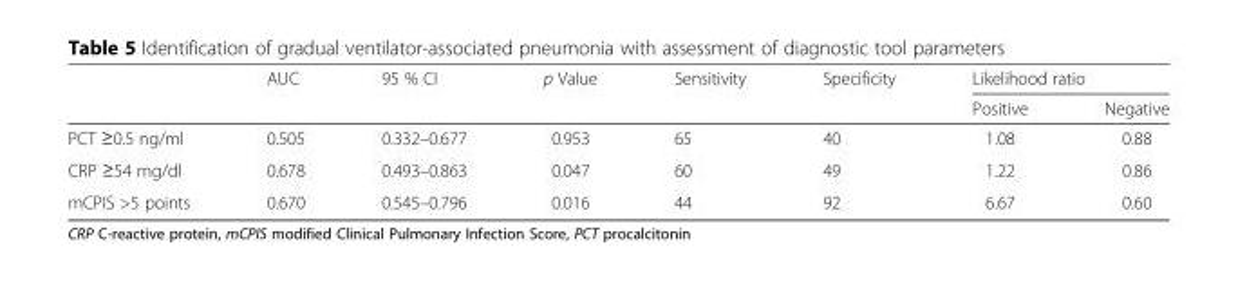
<table><thead><tr><td rowspan="2"></td><td rowspan="2">AUC</td><td rowspan="2">95 % CI</td><td rowspan="2">p Value</td><td rowspan="2">Sensitivity</td><td rowspan="2">Specificity</td><td colspan="2">Likelihood ratio</td></tr><tr><td>Positive</td><td>Negative</td></tr></thead><tbody><tr><td>PCT ≥0.5 ng/ml</td><td>0.505</td><td>0.332–0.677</td><td>0.953</td><td>65</td><td>40</td><td>1.08</td><td>0.88</td></tr><tr><td>CRP ≥54 mg/dl</td><td>0.678</td><td>0.493–0.863</td><td>0.047</td><td>60</td><td>49</td><td>1.22</td><td>0.86</td></tr><tr><td>mCPIS &gt;5 points</td><td>0.670</td><td>0.545–0.796</td><td>0.016</td><td>44</td><td>92</td><td>6.67</td><td>0.60</td></tr></tbody></table>